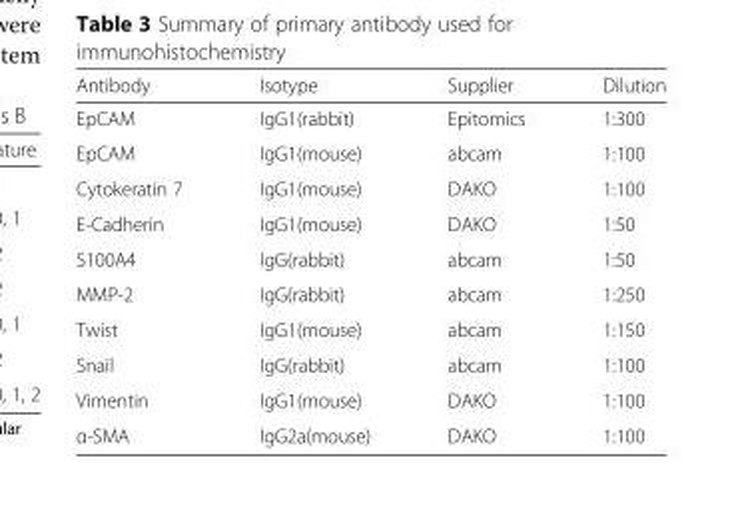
<table><thead><tr><td>Antibody</td><td>Isotype</td><td>Supplier</td><td>Dilution</td></tr></thead><tbody><tr><td>EpCAM</td><td>IgG1(rabbit)</td><td>Epitomics</td><td>1:300</td></tr><tr><td>EpCAM</td><td>IgG1(mouse)</td><td>abcam</td><td>1:100</td></tr><tr><td>Cytokeratin 7</td><td>IgG1(mouse)</td><td>DAKO</td><td>1:100</td></tr><tr><td>E-Cadherin</td><td>IgG1(mouse)</td><td>DAKO</td><td>1:50</td></tr><tr><td>S100A4</td><td>IgG(rabbit)</td><td>abcam</td><td>1:50</td></tr><tr><td>MMP-2</td><td>IgG(rabbit)</td><td>abcam</td><td>1:250</td></tr><tr><td>Twist</td><td>IgG1(mouse)</td><td>abcam</td><td>1:150</td></tr><tr><td>Snail</td><td>IgG(rabbit)</td><td>abcam</td><td>1:100</td></tr><tr><td>Vimentin</td><td>IgG1(mouse)</td><td>DAKO</td><td>1:100</td></tr><tr><td>α-SMA</td><td>IgG2a(mouse)</td><td>DAKO</td><td>1:100</td></tr></tbody></table>